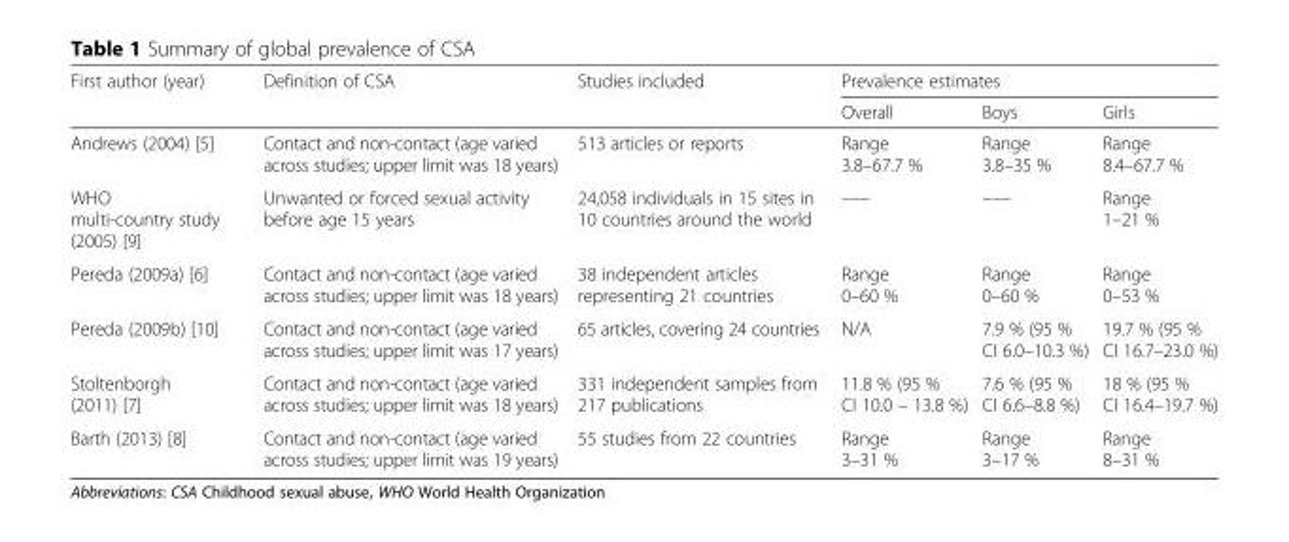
<table><thead><tr><td rowspan="2">First author (year)</td><td rowspan="2">Definition of CSA</td><td rowspan="2">Studies included</td><td colspan="3">Prevalence estimates</td></tr><tr><td>Overall</td><td>Boys</td><td>Girls</td></tr></thead><tbody><tr><td>Andrews (2004) [5]</td><td>Contact and non-contact (age varied across studies; upper limit was 18 years)</td><td>513 articles or reports</td><td>Range 3.8–67.7 %</td><td>Range 3.8–35 %</td><td>Range 8.4–67.7 %</td></tr><tr><td>WHO multi-country study (2005) [9]</td><td>Unwanted or forced sexual activity before age 15 years</td><td>24,058 individuals in 15 sites in 10 countries around the world</td><td>–––</td><td>–––</td><td>Range 1–21 %</td></tr><tr><td>Pereda (2009a) [6]</td><td>Contact and non-contact (age varied across studies; upper limit was 18 years)</td><td>38 independent articles representing 21 countries</td><td>Range 0–60 %</td><td>Range 0–60 %</td><td>Range 0–53 %</td></tr><tr><td>Pereda (2009b) [10]</td><td>Contact and non-contact (age varied across studies; upper limit was 17 years)</td><td>65 articles, covering 24 countries</td><td>N/A</td><td>7.9 % (95 % CI 6.0–10.3 %)</td><td>19.7 % (95 % CI 16.7–23.0 %)</td></tr><tr><td>Stoltenborgh (2011) [7]</td><td>Contact and non-contact (age varied across studies; upper limit was 18 years)</td><td>331 independent samples from 217 publications</td><td>11.8 % (95 % CI 10.0 – 13.8 %)</td><td>7.6 % (95 % CI 6.6–8.8 %)</td><td>18 % (95 % CI 16.4–19.7 %)</td></tr><tr><td>Barth (2013) [8]</td><td>Contact and non-contact (age varied across studies; upper limit was 19 years)</td><td>55 studies from 22 countries</td><td>Range 3–31 %</td><td>Range 3–17 %</td><td>Range 8–31 %</td></tr></tbody></table>